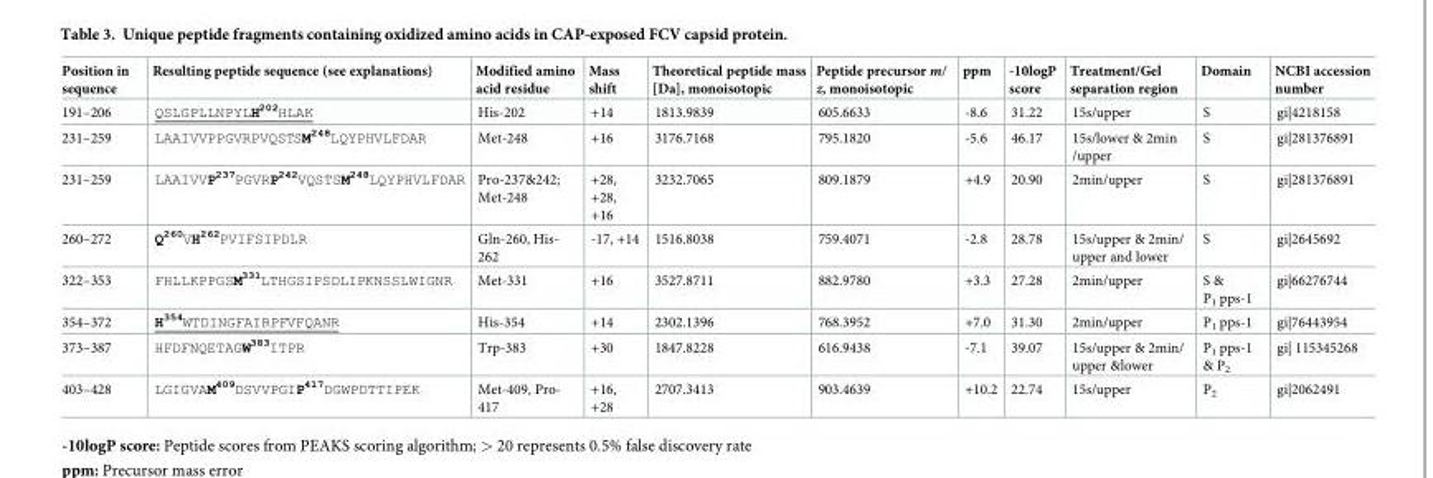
<table><thead><tr><td>Position in sequence</td><td>Resulting peptide sequence (see explanations)</td><td>Modified amino acid residue</td><td>Mass shift</td><td>Theoretical peptide mass [Da], monoisotopic</td><td>Peptide precursor m/ z, monoisotopic</td><td>ppm</td><td>-10logP score</td><td>Treatment/Gel separation region</td><td>Domain</td><td>NCBI accession number</td></tr></thead><tbody><tr><td>191–206</td><td>QSLGPLLNPYLH<sup>202</sup>HLAK</td><td>His-202</td><td>+14</td><td>1813.9839</td><td>605.6633</td><td>-8.6</td><td>31.22</td><td>15s/upper</td><td>S</td><td>gi|4218158</td></tr><tr><td>231–259</td><td>LAAIVVPPGVRPVQSTSM<sup>248</sup>LQYPHVLFDAR</td><td>Met-248</td><td>+16</td><td>3176.7168</td><td>795.1820</td><td>-5.6</td><td>46.17</td><td>15s/lower &amp; 2min /upper</td><td>S</td><td>gi|281376891</td></tr><tr><td>231–259</td><td>LAAIVVP<sup>237</sup>PGVRP<sup>242</sup>VQSTSM<sup>248</sup>LQYPHVLFDAR</td><td>Pro-237&amp;242; Met-248</td><td>+28, +28, +16</td><td>3232.7065</td><td>809.1879</td><td>+4.9</td><td>20.90</td><td>2min/upper</td><td>S</td><td>gi|281376891</td></tr><tr><td>260–272</td><td>Q<sup>260</sup>VH<sup>262</sup>PVIFSIPDLR</td><td>Gln-260, His- 262</td><td>-17, +14</td><td>1516.8038</td><td>759.4071</td><td>-2.8</td><td>28.78</td><td>15s/upper &amp; 2min/ upper and lower</td><td>S</td><td>gi|2645692</td></tr><tr><td>322–353</td><td>FHLLKPPGSM<sup>331</sup>LTHGSIPSDLIPKNSSLWIGNR</td><td>Met-331</td><td>+16</td><td>3527.8711</td><td>882.9780</td><td>+3.3</td><td>27.28</td><td>2min/upper</td><td>S &amp; P<sub>1</sub> pps-1</td><td>gi|66276744</td></tr><tr><td>354–372</td><td>H<sup>354</sup>WTDINGFAIRPFVFQANR</td><td>His-354</td><td>+14</td><td>2302.1396</td><td>768.3952</td><td>+7.0</td><td>31.30</td><td>2min/upper</td><td>P<sub>1</sub> pps-1</td><td>gi|76443954</td></tr><tr><td>373–387</td><td>HFDFNQETAGW<sup>383</sup>ITPR</td><td>Trp-383</td><td>+30</td><td>1847.8228</td><td>616.9438</td><td>-7.1</td><td>39.07</td><td>15s/upper &amp; 2min/ upper &amp;lower</td><td>P<sub>1</sub> pps-1 &amp; P<sub>2</sub></td><td>gi| 115345268</td></tr><tr><td>403–428</td><td>LGIGVAM<sup>409</sup>DSVVPGIP<sup>417</sup>DGWPDTTIPEK</td><td>Met-409, Pro- 417</td><td>+16, +28</td><td>2707.3413</td><td>903.4639</td><td>+10.2</td><td>22.74</td><td>15s/upper</td><td>P<sub>2</sub></td><td>gi|2062491</td></tr></tbody></table>